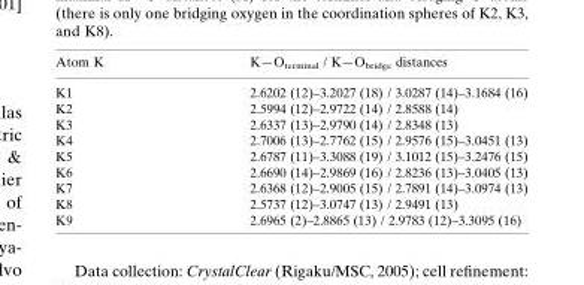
<table><thead><tr><td>Atom K</td><td>K—O<sub>terminal</sub> / K—O<sub>bridge</sub> distances</td></tr></thead><tbody><tr><td>K1</td><td>2.6202 (12)–3.2027 (18) / 3.0287 (14)–3.1684 (16)</td></tr><tr><td>K2</td><td>2.5994 (12)–2.9722 (14) / 2.8588 (14)</td></tr><tr><td>K3</td><td>2.6337 (13)–2.9790 (14) / 2.8348 (13)</td></tr><tr><td>K4</td><td>2.7006 (13)–2.7762 (15) / 2.9576 (15)–3.0451 (13)</td></tr><tr><td>K5</td><td>2.6787 (11)–3.3088 (19) / 3.1012 (15)–3.2476 (15)</td></tr><tr><td>K6</td><td>2.6690 (14)–2.9869 (16) / 2.8236 (13)–3.0405 (13)</td></tr><tr><td>K7</td><td>2.6368 (12)–2.9005 (15) / 2.7891 (14)–3.0974 (13)</td></tr><tr><td>K8</td><td>2.5737 (12)–3.0747 (13) / 2.9491 (13)</td></tr><tr><td>K9</td><td>2.6965 (2)–2.8865 (13) / 2.9783 (12)–3.3095 (16)</td></tr></tbody></table>